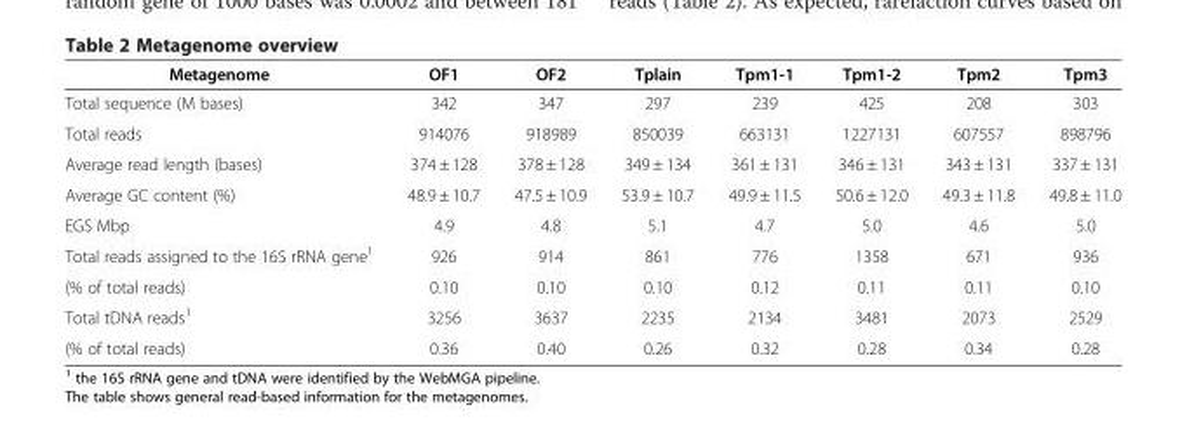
<table><thead><tr><td>Metagenome</td><td>OF1</td><td>OF2</td><td>Tplain</td><td>Tpm1-1</td><td>Tpm1-2</td><td>Tpm2</td><td>Tpm3</td></tr></thead><tbody><tr><td>Total sequence (M bases)</td><td>342</td><td>347</td><td>297</td><td>239</td><td>425</td><td>208</td><td>303</td></tr><tr><td>Total reads</td><td>914076</td><td>918989</td><td>850039</td><td>663131</td><td>1227131</td><td>607557</td><td>898796</td></tr><tr><td>Average read length (bases)</td><td>374 ± 128</td><td>378 ± 128</td><td>349 ± 134</td><td>361 ± 131</td><td>346 ± 131</td><td>343 ± 131</td><td>337 ± 131</td></tr><tr><td>Average GC content (%)</td><td>48.9 ± 10.7</td><td>47.5 ± 10.9</td><td>53.9 ± 10.7</td><td>49.9 ± 11.5</td><td>50.6 ± 12.0</td><td>49.3 ± 11.8</td><td>49.8 ± 11.0</td></tr><tr><td>EGS Mbp</td><td>4.9</td><td>4.8</td><td>5.1</td><td>4.7</td><td>5.0</td><td>4.6</td><td>5.0</td></tr><tr><td>Total reads assigned to the 16S rRNA gene<sup>1</sup></td><td>926</td><td>914</td><td>861</td><td>776</td><td>1358</td><td>671</td><td>936</td></tr><tr><td>(% of total reads)</td><td>0.10</td><td>0.10</td><td>0.10</td><td>0.12</td><td>0.11</td><td>0.11</td><td>0.10</td></tr><tr><td>Total tDNA reads<sup>1</sup></td><td>3256</td><td>3637</td><td>2235</td><td>2134</td><td>3481</td><td>2073</td><td>2529</td></tr><tr><td>(% of total reads)</td><td>0.36</td><td>0.40</td><td>0.26</td><td>0.32</td><td>0.28</td><td>0.34</td><td>0.28</td></tr></tbody></table>